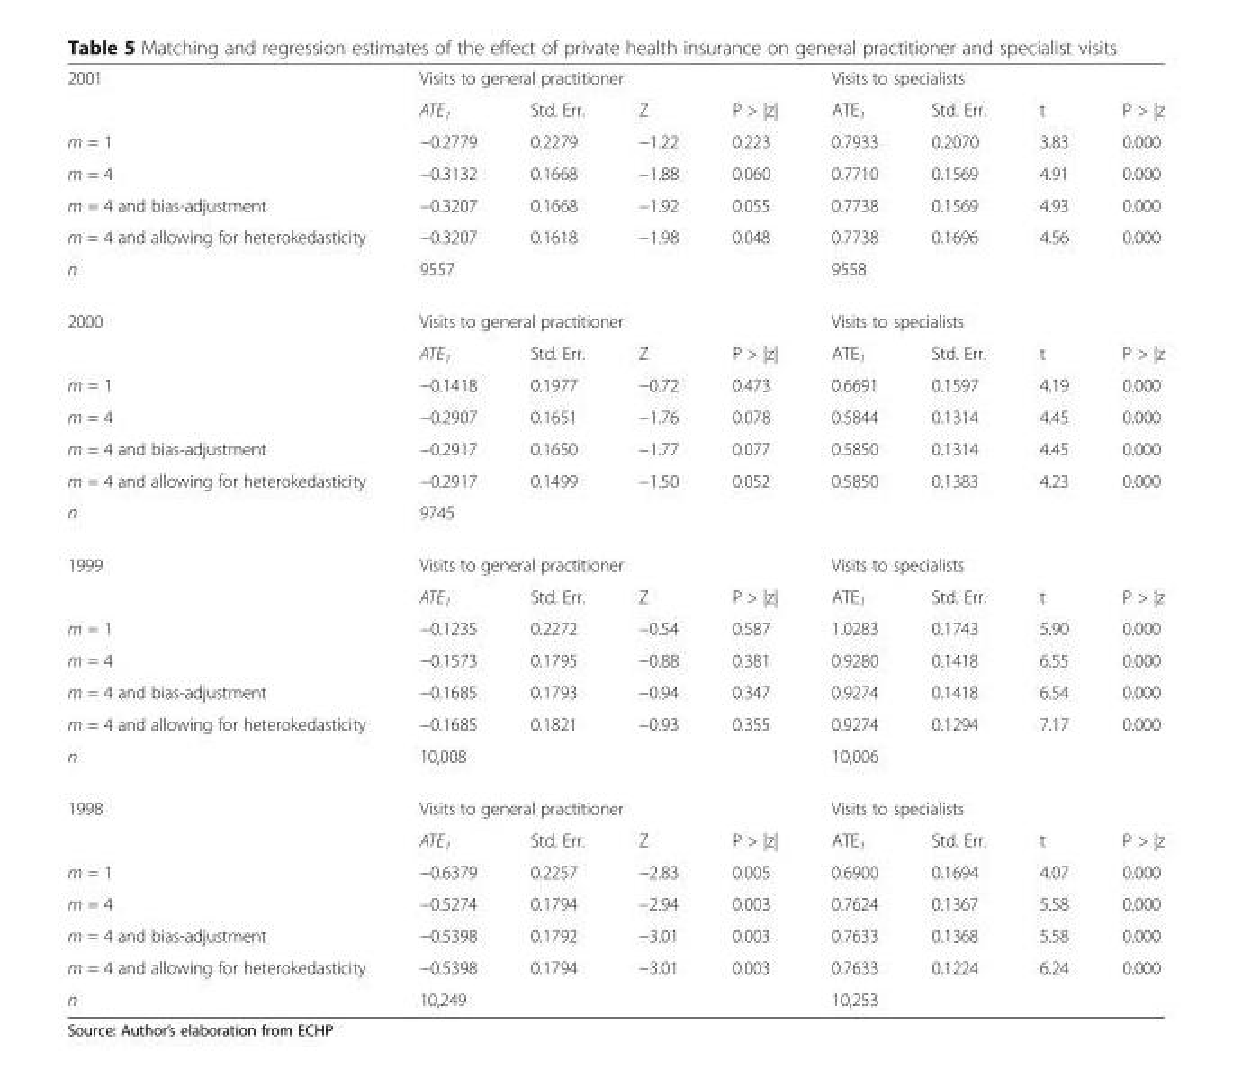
<table><tbody><tr><td rowspan="2">2001</td><td colspan="4">Visits to general practitioner</td><td colspan="4">Visits to specialists</td></tr><tr><td>ATE<sub>1</sub></td><td>Std. Err.</td><td>Z</td><td>P &gt; |z|</td><td>ATE<sub>1</sub></td><td>Std. Err.</td><td>t</td><td>P &gt; |z</td></tr><tr><td>m = 1</td><td>−0.2779</td><td>0.2279</td><td>−1.22</td><td>0.223</td><td>0.7933</td><td>0.2070</td><td>3.83</td><td>0.000</td></tr><tr><td>m = 4</td><td>−0.3132</td><td>0.1668</td><td>−1.88</td><td>0.060</td><td>0.7710</td><td>0.1569</td><td>4.91</td><td>0.000</td></tr><tr><td>m = 4 and bias-adjustment</td><td>−0.3207</td><td>0.1668</td><td>−1.92</td><td>0.055</td><td>0.7738</td><td>0.1569</td><td>4.93</td><td>0.000</td></tr><tr><td>m = 4 and allowing for heterokedasticity</td><td>−0.3207</td><td>0.1618</td><td>−1.98</td><td>0.048</td><td>0.7738</td><td>0.1696</td><td>4.56</td><td>0.000</td></tr><tr><td>n</td><td>9557</td><td></td><td></td><td></td><td>9558</td><td></td><td></td><td></td></tr><tr><td rowspan="2">2000</td><td colspan="4">Visits to general practitioner</td><td colspan="4">Visits to specialists</td></tr><tr><td>ATE<sub>1</sub></td><td>Std. Err.</td><td>Z</td><td>P &gt; |z|</td><td>ATE<sub>1</sub></td><td>Std. Err.</td><td>t</td><td>P &gt; |z</td></tr><tr><td>m = 1</td><td>−0.1418</td><td>0.1977</td><td>−0.72</td><td>0.473</td><td>0.6691</td><td>0.1597</td><td>4.19</td><td>0.000</td></tr><tr><td>m = 4</td><td>−0.2907</td><td>0.1651</td><td>−1.76</td><td>0.078</td><td>0.5844</td><td>0.1314</td><td>4.45</td><td>0.000</td></tr><tr><td>m = 4 and bias-adjustment</td><td>−0.2917</td><td>0.1650</td><td>−1.77</td><td>0.077</td><td>0.5850</td><td>0.1314</td><td>4.45</td><td>0.000</td></tr><tr><td>m = 4 and allowing for heterokedasticity</td><td>−0.2917</td><td>0.1499</td><td>−1.50</td><td>0.052</td><td>0.5850</td><td>0.1383</td><td>4.23</td><td>0.000</td></tr><tr><td>n</td><td>9745</td><td></td><td></td><td></td><td></td><td></td><td></td><td></td></tr><tr><td rowspan="2">1999</td><td colspan="4">Visits to general practitioner</td><td colspan="4">Visits to specialists</td></tr><tr><td>ATE<sub>1</sub></td><td>Std. Err.</td><td>Z</td><td>P &gt; |z|</td><td>ATE<sub>1</sub></td><td>Std. Err.</td><td>t</td><td>P &gt; |z</td></tr><tr><td>m = 1</td><td>−0.1235</td><td>0.2272</td><td>−0.54</td><td>0.587</td><td>1.0283</td><td>0.1743</td><td>5.90</td><td>0.000</td></tr><tr><td>m = 4</td><td>−0.1573</td><td>0.1795</td><td>−0.88</td><td>0.381</td><td>0.9280</td><td>0.1418</td><td>6.55</td><td>0.000</td></tr><tr><td>m = 4 and bias-adjustment</td><td>−0.1685</td><td>0.1793</td><td>−0.94</td><td>0.347</td><td>0.9274</td><td>0.1418</td><td>6.54</td><td>0.000</td></tr><tr><td>m = 4 and allowing for heterokedasticity</td><td>−0.1685</td><td>0.1821</td><td>−0.93</td><td>0.355</td><td>0.9274</td><td>0.1294</td><td>7.17</td><td>0.000</td></tr><tr><td>n</td><td>10,008</td><td></td><td></td><td></td><td>10,006</td><td></td><td></td><td></td></tr><tr><td rowspan="2">1998</td><td colspan="4">Visits to general practitioner</td><td colspan="4">Visits to specialists</td></tr><tr><td>ATE<sub>1</sub></td><td>Std. Err.</td><td>Z</td><td>P &gt; |z|</td><td>ATE<sub>1</sub></td><td>Std. Err.</td><td>t</td><td>P &gt; |z</td></tr><tr><td>m = 1</td><td>−0.6379</td><td>0.2257</td><td>−2.83</td><td>0.005</td><td>0.6900</td><td>0.1694</td><td>4.07</td><td>0.000</td></tr><tr><td>m = 4</td><td>−0.5274</td><td>0.1794</td><td>−2.94</td><td>0.003</td><td>0.7624</td><td>0.1367</td><td>5.58</td><td>0.000</td></tr><tr><td>m = 4 and bias-adjustment</td><td>−0.5398</td><td>0.1792</td><td>−3.01</td><td>0.003</td><td>0.7633</td><td>0.1368</td><td>5.58</td><td>0.000</td></tr><tr><td>m = 4 and allowing for heterokedasticity</td><td>−0.5398</td><td>0.1794</td><td>−3.01</td><td>0.003</td><td>0.7633</td><td>0.1224</td><td>6.24</td><td>0.000</td></tr><tr><td>n</td><td>10,249</td><td></td><td></td><td></td><td>10,253</td><td></td><td></td><td></td></tr></tbody></table>